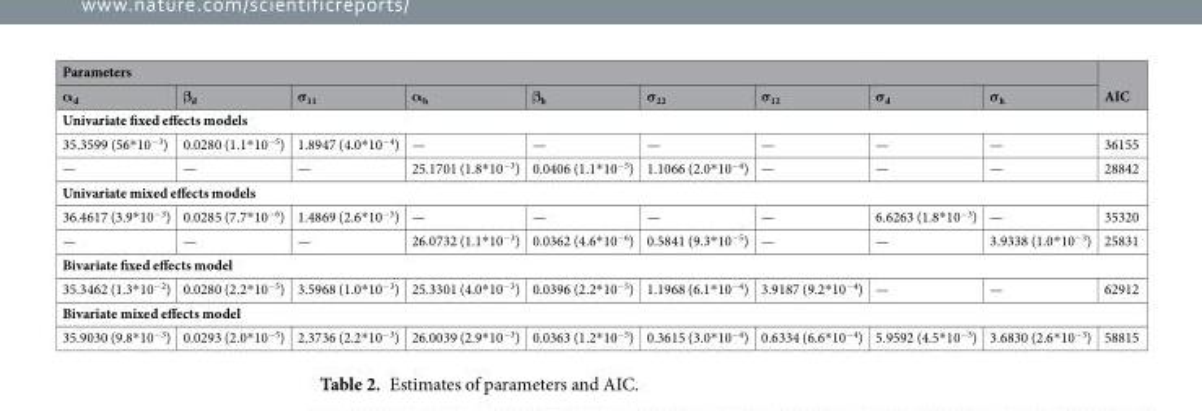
<table><thead><tr><td colspan="9">Parameters</td><td rowspan="2">AIC</td></tr><tr><td>α<sub>d</sub></td><td>β<sub>d</sub></td><td>σ<sub>11</sub></td><td>α<sub>h</sub></td><td>β<sub>h</sub></td><td>σ<sub>22</sub></td><td>σ<sub>12</sub></td><td>σ<sub>d</sub></td><td>σ<sub>h</sub></td></tr></thead><tbody><tr><td colspan="10">Univariate fixed effects models</td></tr><tr><td>35.3599 (56*10<sup>−3</sup>)</td><td>0.0280 (1.1*10<sup>−5</sup>)</td><td>1.8947 (4.0*10<sup>−4</sup>)</td><td>—</td><td>—</td><td>—</td><td>—</td><td>—</td><td>—</td><td>36155</td></tr><tr><td>—</td><td>—</td><td>—</td><td>25.1701 (1.8*10<sup>−3</sup>)</td><td>0.0406 (1.1*10<sup>−5</sup>)</td><td>1.1066 (2.0*10<sup>−4</sup>)</td><td>—</td><td>—</td><td>—</td><td>28842</td></tr><tr><td colspan="10">Univariate mixed effects models</td></tr><tr><td>36.4617 (3.9*10<sup>−3</sup>)</td><td>0.0285 (7.7*10<sup>−6</sup>)</td><td>1.4869 (2.6*10<sup>−5</sup>)</td><td>—</td><td>—</td><td>—</td><td>—</td><td>6.6263 (1.8*10<sup>−3</sup>)</td><td>—</td><td>35320</td></tr><tr><td>—</td><td>—</td><td>—</td><td>26.0732 (1.1*10<sup>−3</sup>)</td><td>0.0362 (4.6*10<sup>−6</sup>)</td><td>0.5841 (9.3*10<sup>−5</sup>)</td><td>—</td><td>—</td><td>3.9338 (1.0*10<sup>−3</sup>)</td><td>25831</td></tr><tr><td colspan="10">Bivariate fixed effects model</td></tr><tr><td>35.3462 (1.3*10<sup>−2</sup>)</td><td>0.0280 (2.2*10<sup>−5</sup>)</td><td>3.5968 (1.0*10<sup>−3</sup>)</td><td>25.3301 (4.0*10<sup>−3</sup>)</td><td>0.0396 (2.2*10<sup>−5</sup>)</td><td>1.1968 (6.1*10<sup>−4</sup>)</td><td>3.9187 (9.2*10<sup>−4</sup>)</td><td>—</td><td>—</td><td>62912</td></tr><tr><td colspan="10">Bivariate mixed effects model</td></tr><tr><td>35.9030 (9.8*10<sup>−3</sup>)</td><td>0.0293 (2.0*10<sup>−5</sup>)</td><td>2.3736 (2.2*10<sup>−3</sup>)</td><td>26.0039 (2.9*10<sup>−3</sup>)</td><td>0.0363 (1.2*10<sup>−5</sup>)</td><td>0.3615 (3.0*10<sup>−4</sup>)</td><td>0.6334 (6.6*10<sup>−4</sup>)</td><td>5.9592 (4.5*10<sup>−3</sup>)</td><td>3.6830 (2.6*10<sup>−3</sup>)</td><td>58815</td></tr></tbody></table>